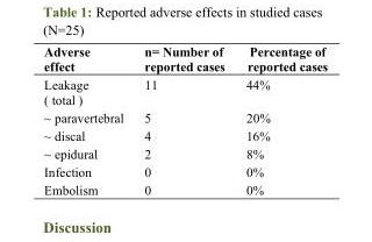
<table><thead><tr><td>Adverse effect</td><td>n= Number of reported cases</td><td>Percentage of reported cases</td></tr></thead><tbody><tr><td>Leakage ( total )</td><td>11</td><td>44%</td></tr><tr><td>~ paravertebral</td><td>5</td><td>20%</td></tr><tr><td>~ discal</td><td>4</td><td>16%</td></tr><tr><td>~ epidural</td><td>2</td><td>8%</td></tr><tr><td>Infection</td><td>0</td><td>0%</td></tr><tr><td>Embolism</td><td>0</td><td>0%</td></tr></tbody></table>